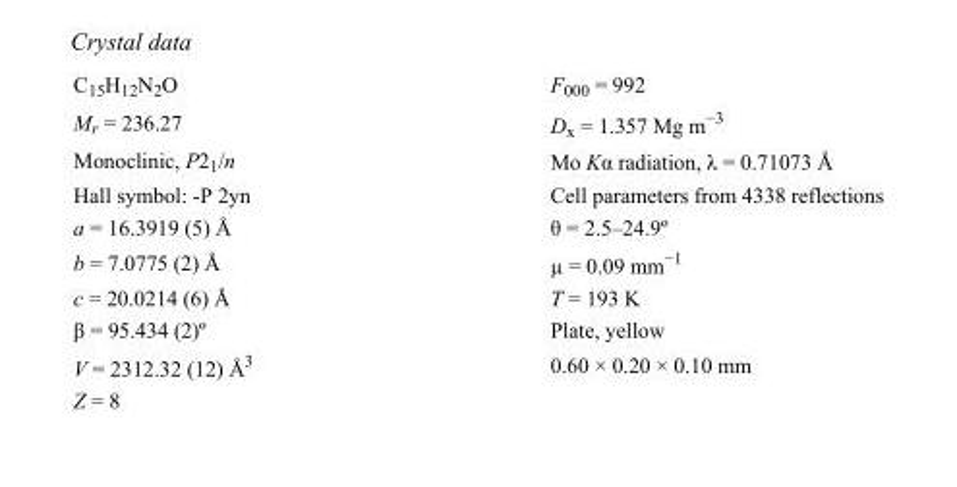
<table><tbody><tr><td>C<sub>15</sub>H<sub>12</sub>N<sub>2</sub>O</td><td>F000 = 992</td></tr><tr><td>M<sub>r</sub> = 236.27</td><td>D<sub>x</sub> = 1.357 Mg m<sup>−3</sup></td></tr><tr><td>Monoclinic, P2<sub>1</sub>/n</td><td>Mo Kα radiation, λ = 0.71073 Å</td></tr><tr><td>Hall symbol: -P 2yn</td><td>Cell parameters from 4338 reflections</td></tr><tr><td>a = 16.3919 (5) Å</td><td>θ = 2.5–24.9º</td></tr><tr><td>b = 7.0775 (2) Å</td><td>µ = 0.09 mm<sup>−1</sup></td></tr><tr><td>c = 20.0214 (6) Å</td><td>T = 193 K</td></tr><tr><td>β = 95.434 (2)º</td><td>Plate, yellow</td></tr><tr><td>V = 2312.32 (12) Å<sup>3</sup></td><td>0.60 × 0.20 × 0.10 mm</td></tr><tr><td>Z = 8</td><td></td></tr></tbody></table>